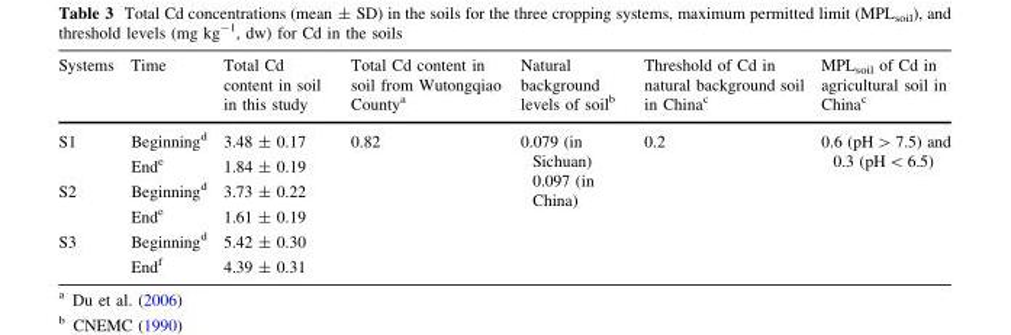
<table><thead><tr><td>Systems</td><td>Time</td><td>Total Cd content in soil in this study</td><td>Total Cd content in soil from Wutongqiao County<sup>a</sup></td><td>Natural background levels of soil<sup>b</sup></td><td>Threshold of Cd in natural background soil in China<sup>c</sup></td><td>MPL<sub>soil</sub> of Cd in agricultural soil in China<sup>c</sup></td></tr></thead><tbody><tr><td rowspan="2">S1</td><td>Beginning<sup>d</sup></td><td>3.48 ± 0.17</td><td rowspan="6">0.82</td><td rowspan="6">0.079 (in Sichuan) 0.097 (in China)</td><td rowspan="6">0.2</td><td rowspan="6">0.6 (pH &gt; 7.5) and 0.3 (pH &lt; 6.5)</td></tr><tr><td>End<sup>e</sup></td><td>1.84 ± 0.19</td></tr><tr><td rowspan="2">S2</td><td>Beginning<sup>d</sup></td><td>3.73 ± 0.22</td></tr><tr><td>End<sup>e</sup></td><td>1.61 ± 0.19</td></tr><tr><td rowspan="2">S3</td><td>Beginning<sup>d</sup></td><td>5.42 ± 0.30</td></tr><tr><td>End<sup>f</sup></td><td>4.39 ± 0.31</td></tr></tbody></table>